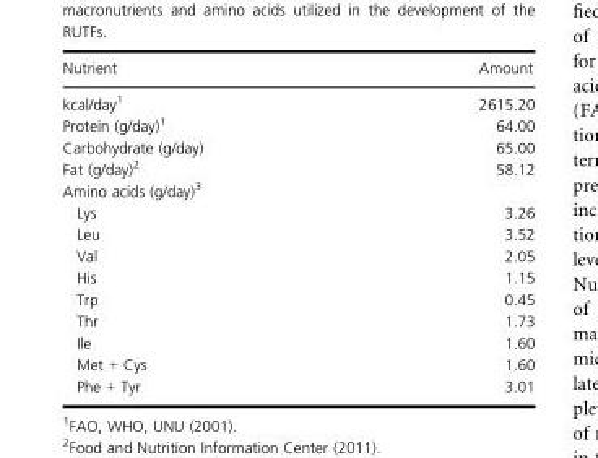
<table><thead><tr><td>Nutrient</td><td>Amount</td></tr></thead><tbody><tr><td>kcal/day<sup>1</sup></td><td>2615.20</td></tr><tr><td>Protein (g/day)<sup>1</sup></td><td>64.00</td></tr><tr><td>Carbohydrate (g/day)</td><td>65.00</td></tr><tr><td>Fat (g/day)<sup>2</sup></td><td>58.12</td></tr><tr><td colspan="2">Amino acids (g/day)<sup>3</sup></td></tr><tr><td>Lys</td><td>3.26</td></tr><tr><td>Leu</td><td>3.52</td></tr><tr><td>Val</td><td>2.05</td></tr><tr><td>His</td><td>1.15</td></tr><tr><td>Trp</td><td>0.45</td></tr><tr><td>Thr</td><td>1.73</td></tr><tr><td>Ile</td><td>1.60</td></tr><tr><td>Met + Cys</td><td>1.60</td></tr><tr><td>Phe + Tyr</td><td>3.01</td></tr></tbody></table>